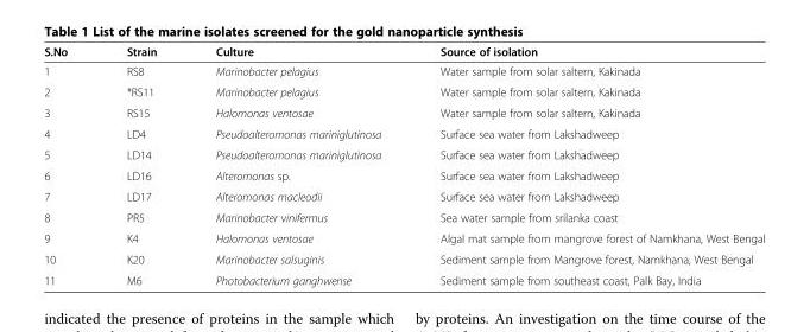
<table><thead><tr><td>S.No</td><td>Strain</td><td>Culture</td><td>Source of isolation</td></tr></thead><tbody><tr><td>1</td><td>RS8</td><td>Marinobacter pelagius</td><td>Water sample from solar saltern, Kakinada</td></tr><tr><td>2</td><td>*RS11</td><td>Marinobacter pelagius</td><td>Water sample from solar saltern, Kakinada</td></tr><tr><td>3</td><td>RS15</td><td>Halomonas ventosae</td><td>Water sample from solar saltern, Kakinada</td></tr><tr><td>4</td><td>LD4</td><td>Pseudoalteromonas mariniglutinosa</td><td>Surface sea water from Lakshadweep</td></tr><tr><td>5</td><td>LD14</td><td>Pseudoalteromonas mariniglutinosa</td><td>Surface sea water from Lakshadweep</td></tr><tr><td>6</td><td>LD16</td><td>Alteromonas sp.</td><td>Surface sea water from Lakshadweep</td></tr><tr><td>7</td><td>LD17</td><td>Alteromonas macleodii</td><td>Surface sea water from Lakshadweep</td></tr><tr><td>8</td><td>PR5</td><td>Marinobacter vinifermus</td><td>Sea water sample from srilanka coast</td></tr><tr><td>9</td><td>K4</td><td>Halomonas ventosae</td><td>Algal mat sample from mangrove forest of Namkhana, West Bengal</td></tr><tr><td>10</td><td>K20</td><td>Marinobacter salsuginis</td><td>Sediment sample from Mangrove forest, Namkhana, West Bengal</td></tr><tr><td>11</td><td>M6</td><td>Photobacterium ganghwense</td><td>Sediment sample from southeast coast, Palk Bay, India</td></tr></tbody></table>